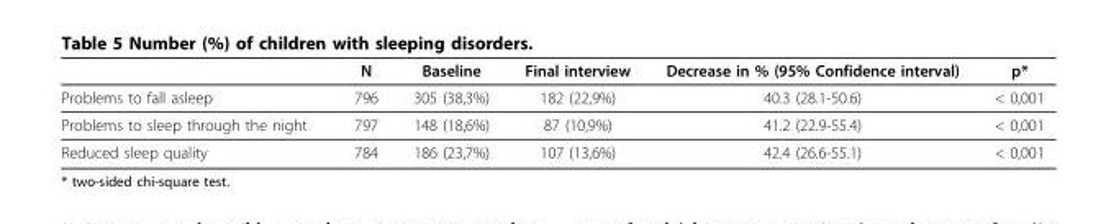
<table><thead><tr><td></td><td>N</td><td>Baseline</td><td>Final interview</td><td>Decrease in % (95% Confidence interval)</td><td>p*</td></tr></thead><tbody><tr><td>Problems to fall asleep</td><td>796</td><td>305 (38,3%)</td><td>182 (22,9%)</td><td>40.3 (28.1-50.6)</td><td>&lt; 0,001</td></tr><tr><td>Problems to sleep through the night</td><td>797</td><td>148 (18,6%)</td><td>87 (10,9%)</td><td>41.2 (22.9-55.4)</td><td>&lt; 0,001</td></tr><tr><td>Reduced sleep quality</td><td>784</td><td>186 (23,7%)</td><td>107 (13,6%)</td><td>42.4 (26.6-55.1)</td><td>&lt; 0,001</td></tr></tbody></table>